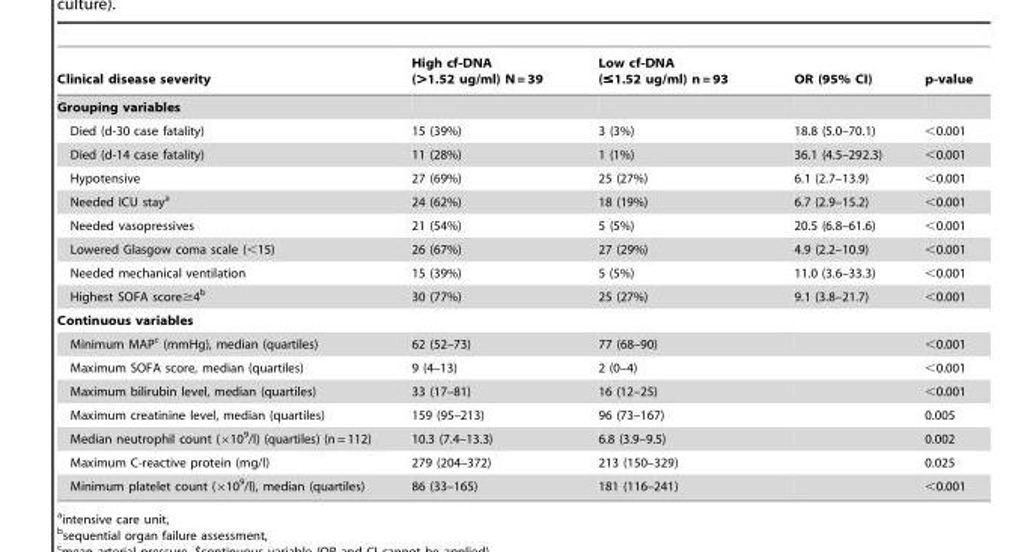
<table><thead><tr><td>Clinical disease severity</td><td>High cf-DNA (&gt;1.52 ug/ml) N = 39</td><td>Low cf-DNA (≤1.52 ug/ml) n = 93</td><td>OR (95% CI)</td><td>p-value</td></tr></thead><tbody><tr><td colspan="5">Grouping variables</td></tr><tr><td>Died (d-30 case fatality)</td><td>15 (39%)</td><td>3 (3%)</td><td>18.8 (5.0–70.1)</td><td>&lt;0.001</td></tr><tr><td>Died (d-14 case fatality)</td><td>11 (28%)</td><td>1 (1%)</td><td>36.1 (4.5–292.3)</td><td>&lt;0.001</td></tr><tr><td>Hypotensive</td><td>27 (69%)</td><td>25 (27%)</td><td>6.1 (2.7–13.9)</td><td>&lt;0.001</td></tr><tr><td>Needed ICU stay<sup>a</sup></td><td>24 (62%)</td><td>18 (19%)</td><td>6.7 (2.9–15.2)</td><td>&lt;0.001</td></tr><tr><td>Needed vasopressives</td><td>21 (54%)</td><td>5 (5%)</td><td>20.5 (6.8–61.6)</td><td>&lt;0.001</td></tr><tr><td>Lowered Glasgow coma scale (&lt;15)</td><td>26 (67%)</td><td>27 (29%)</td><td>4.9 (2.2–10.9)</td><td>&lt;0.001</td></tr><tr><td>Needed mechanical ventilation</td><td>15 (39%)</td><td>5 (5%)</td><td>11.0 (3.6–33.3)</td><td>&lt;0.001</td></tr><tr><td>Highest SOFA score≥4<sup>b</sup></td><td>30 (77%)</td><td>25 (27%)</td><td>9.1 (3.8–21.7)</td><td>&lt;0.001</td></tr><tr><td colspan="5">Continuous variables</td></tr><tr><td>Minimum MAP<sup>c</sup> (mmHg), median (quartiles)</td><td>62 (52–73)</td><td>77 (68–90)</td><td></td><td>&lt;0.001</td></tr><tr><td>Maximum SOFA score, median (quartiles)</td><td>9 (4–13)</td><td>2 (0–4)</td><td></td><td>&lt;0.001</td></tr><tr><td>Maximum bilirubin level, median (quartiles)</td><td>33 (17–81)</td><td>16 (12–25)</td><td></td><td>&lt;0.001</td></tr><tr><td>Maximum creatinine level, median (quartiles)</td><td>159 (95–213)</td><td>96 (73–167)</td><td></td><td>0.005</td></tr><tr><td>Median neutrophil count (×10<sup>9</sup>/l) (quartiles) (n = 112)</td><td>10.3 (7.4–13.3)</td><td>6.8 (3.9–9.5)</td><td></td><td>0.002</td></tr><tr><td>Maximum C-reactive protein (mg/l)</td><td>279 (204–372)</td><td>213 (150–329)</td><td></td><td>0.025</td></tr><tr><td>Minimum platelet count (×10<sup>9</sup>/l), median (quartiles)</td><td>86 (33–165)</td><td>181 (116–241)</td><td></td><td>&lt;0.001</td></tr></tbody></table>